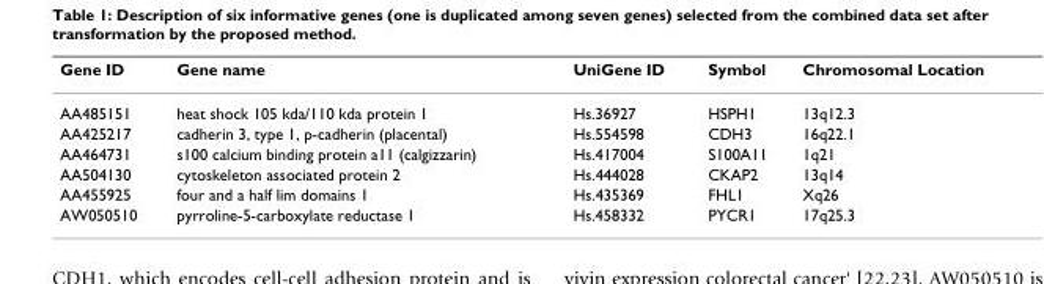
<table><thead><tr><td>Gene ID</td><td>Gene name</td><td>UniGene ID</td><td>Symbol</td><td>Chromosomal Location</td></tr></thead><tbody><tr><td>AA485151</td><td>heat shock 105 kda/110 kda protein 1</td><td>Hs.36927</td><td>HSPH1</td><td>13q12.3</td></tr><tr><td>AA425217</td><td>cadherin 3, type 1, p-cadherin (placental)</td><td>Hs.554598</td><td>CDH3</td><td>16q22.1</td></tr><tr><td>AA464731</td><td>s100 calcium binding protein a11 (calgizzarin)</td><td>Hs.417004</td><td>S100A11</td><td>1q21</td></tr><tr><td>AA504130</td><td>cytoskeleton associated protein 2</td><td>Hs.444028</td><td>CKAP2</td><td>13q14</td></tr><tr><td>AA455925</td><td>four and a half lim domains 1</td><td>Hs.435369</td><td>FHL1</td><td>Xq26</td></tr><tr><td>AW050510</td><td>pyrroline-5-carboxylate reductase 1</td><td>Hs.458332</td><td>PYCR1</td><td>17q25.3</td></tr></tbody></table>